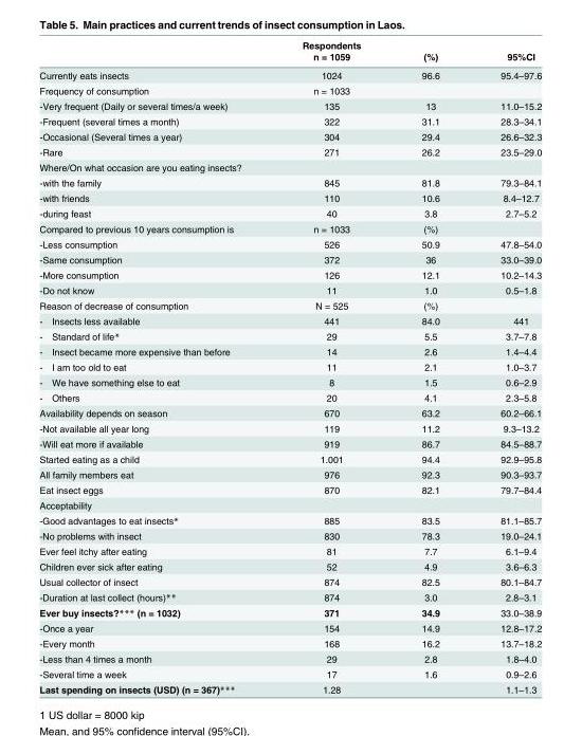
<table><thead><tr><td rowspan="2"></td><td rowspan="2">Respondents n = 1059</td><td rowspan="2">(%)</td><td rowspan="2">95%CI</td></tr><tr></tr></thead><tbody><tr><td>Currently eats insects</td><td>1024</td><td>96.6</td><td>95.4–97.6</td></tr><tr><td>Frequency of consumption</td><td>n = 1033</td><td></td><td></td></tr><tr><td>-Very frequent (Daily or several times/a week)</td><td>135</td><td>13</td><td>11.0–15.2</td></tr><tr><td>-Frequent (several times a month)</td><td>322</td><td>31.1</td><td>28.3–34.1</td></tr><tr><td>-Occasional (Several times a year)</td><td>304</td><td>29.4</td><td>26.6–32.3</td></tr><tr><td>-Rare</td><td>271</td><td>26.2</td><td>23.5–29.0</td></tr><tr><td colspan="4">Where/On what occasion are you eating insects?</td></tr><tr><td>-with the family</td><td>845</td><td>81.8</td><td>79.3–84.1</td></tr><tr><td>-with friends</td><td>110</td><td>10.6</td><td>8.4–12.7</td></tr><tr><td>-during feast</td><td>40</td><td>3.8</td><td>2.7–5.2</td></tr><tr><td>Compared to previous 10 years consumption is</td><td>n = 1033</td><td>(%)</td><td></td></tr><tr><td>-Less consumption</td><td>526</td><td>50.9</td><td>47.8–54.0</td></tr><tr><td>-Same consumption</td><td>372</td><td>36</td><td>33.0–39.0</td></tr><tr><td>-More consumption</td><td>126</td><td>12.1</td><td>10.2–14.3</td></tr><tr><td>-Do not know</td><td>11</td><td>1.0</td><td>0.5–1.8</td></tr><tr><td>Reason of decrease of consumption</td><td>N = 525</td><td>(%)</td><td></td></tr><tr><td>- Insects less available</td><td>441</td><td>84.0</td><td>441</td></tr><tr><td>- Standard of life*</td><td>29</td><td>5.5</td><td>3.7–7.8</td></tr><tr><td>- Insect became more expensive than before</td><td>14</td><td>2.6</td><td>1.4–4.4</td></tr><tr><td>- I am too old to eat</td><td>11</td><td>2.1</td><td>1.0–3.7</td></tr><tr><td>- We have something else to eat</td><td>8</td><td>1.5</td><td>0.6–2.9</td></tr><tr><td>- Others</td><td>20</td><td>4.1</td><td>2.3–5.8</td></tr><tr><td>Availability depends on season</td><td>670</td><td>63.2</td><td>60.2–66.1</td></tr><tr><td>-Not available all year long</td><td>119</td><td>11.2</td><td>9.3–13.2</td></tr><tr><td>-Will eat more if available</td><td>919</td><td>86.7</td><td>84.5–88.7</td></tr><tr><td>Started eating as a child</td><td>1.001</td><td>94.4</td><td>92.9–95.8</td></tr><tr><td>All family members eat</td><td>976</td><td>92.3</td><td>90.3–93.7</td></tr><tr><td>Eat insect eggs</td><td>870</td><td>82.1</td><td>79.7–84.4</td></tr><tr><td colspan="4">Acceptability</td></tr><tr><td>-Good advantages to eat insects*</td><td>885</td><td>83.5</td><td>81.1–85.7</td></tr><tr><td>-No problems with insect</td><td>830</td><td>78.3</td><td>19.0–24.1</td></tr><tr><td>Ever feel itchy after eating</td><td>81</td><td>7.7</td><td>6.1–9.4</td></tr><tr><td>Children ever sick after eating</td><td>52</td><td>4.9</td><td>3.6–6.3</td></tr><tr><td>Usual collector of insect</td><td>874</td><td>82.5</td><td>80.1–84.7</td></tr><tr><td>-Duration at last collect (hours)**</td><td>874</td><td>3.0</td><td>2.8–3.1</td></tr><tr><td>Ever buy insects?*** (n = 1032)</td><td>371</td><td>34.9</td><td>33.0–38.9</td></tr><tr><td>-Once a year</td><td>154</td><td>14.9</td><td>12.8–17.2</td></tr><tr><td>-Every month</td><td>168</td><td>16.2</td><td>13.7–18.2</td></tr><tr><td>-Less than 4 times a month</td><td>29</td><td>2.8</td><td>1.8–4.0</td></tr><tr><td>-Several time a week</td><td>17</td><td>1.6</td><td>0.9–2.6</td></tr><tr><td>Last spending on insects (USD) (n = 367)***</td><td>1.28</td><td></td><td>1.1–1.3</td></tr></tbody></table>